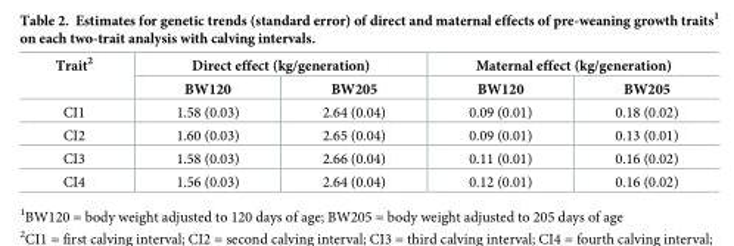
<table><thead><tr><td rowspan="2">Trait<sup>2</sup></td><td colspan="2">Direct effect (kg/generation)</td><td colspan="2">Maternal effect (kg/generation)</td></tr><tr><td>BW120</td><td>BW205</td><td>BW120</td><td>BW205</td></tr></thead><tbody><tr><td>CI1</td><td>1.58 (0.03)</td><td>2.64 (0.04)</td><td>0.09 (0.01)</td><td>0.18 (0.02)</td></tr><tr><td>CI2</td><td>1.60 (0.03)</td><td>2.65 (0.04)</td><td>0.09 (0.01)</td><td>0.13 (0.01)</td></tr><tr><td>CI3</td><td>1.58 (0.03)</td><td>2.66 (0.04)</td><td>0.11 (0.01)</td><td>0.16 (0.02)</td></tr><tr><td>CI4</td><td>1.56 (0.03)</td><td>2.64 (0.04)</td><td>0.12 (0.01)</td><td>0.16 (0.02)</td></tr></tbody></table>